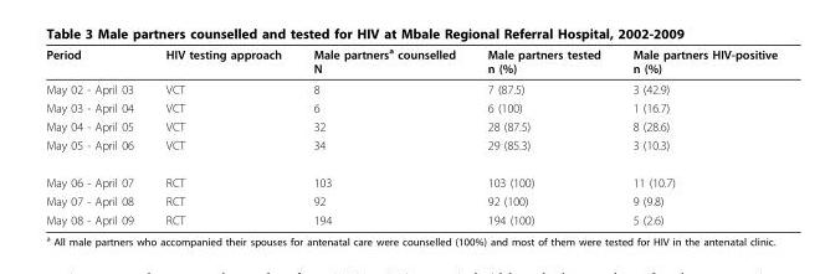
<table><thead><tr><td>Period</td><td>HIV testing approach</td><td>Male partners<sup>a</sup> counselled N</td><td>Male partners tested n (%)</td><td>Male partners HIV-positive n (%)</td></tr></thead><tbody><tr><td>May 02 - April 03</td><td>VCT</td><td>8</td><td>7 (87.5)</td><td>3 (42.9)</td></tr><tr><td>May 03 - April 04</td><td>VCT</td><td>6</td><td>6 (100)</td><td>1 (16.7)</td></tr><tr><td>May 04 - April 05</td><td>VCT</td><td>32</td><td>28 (87.5)</td><td>8 (28.6)</td></tr><tr><td>May 05 - April 06</td><td>VCT</td><td>34</td><td>29 (85.3)</td><td>3 (10.3)</td></tr><tr><td>May 06 - April 07</td><td>RCT</td><td>103</td><td>103 (100)</td><td>11 (10.7)</td></tr><tr><td>May 07 - April 08</td><td>RCT</td><td>92</td><td>92 (100)</td><td>9 (9.8)</td></tr><tr><td>May 08 - April 09</td><td>RCT</td><td>194</td><td>194 (100)</td><td>5 (2.6)</td></tr></tbody></table>